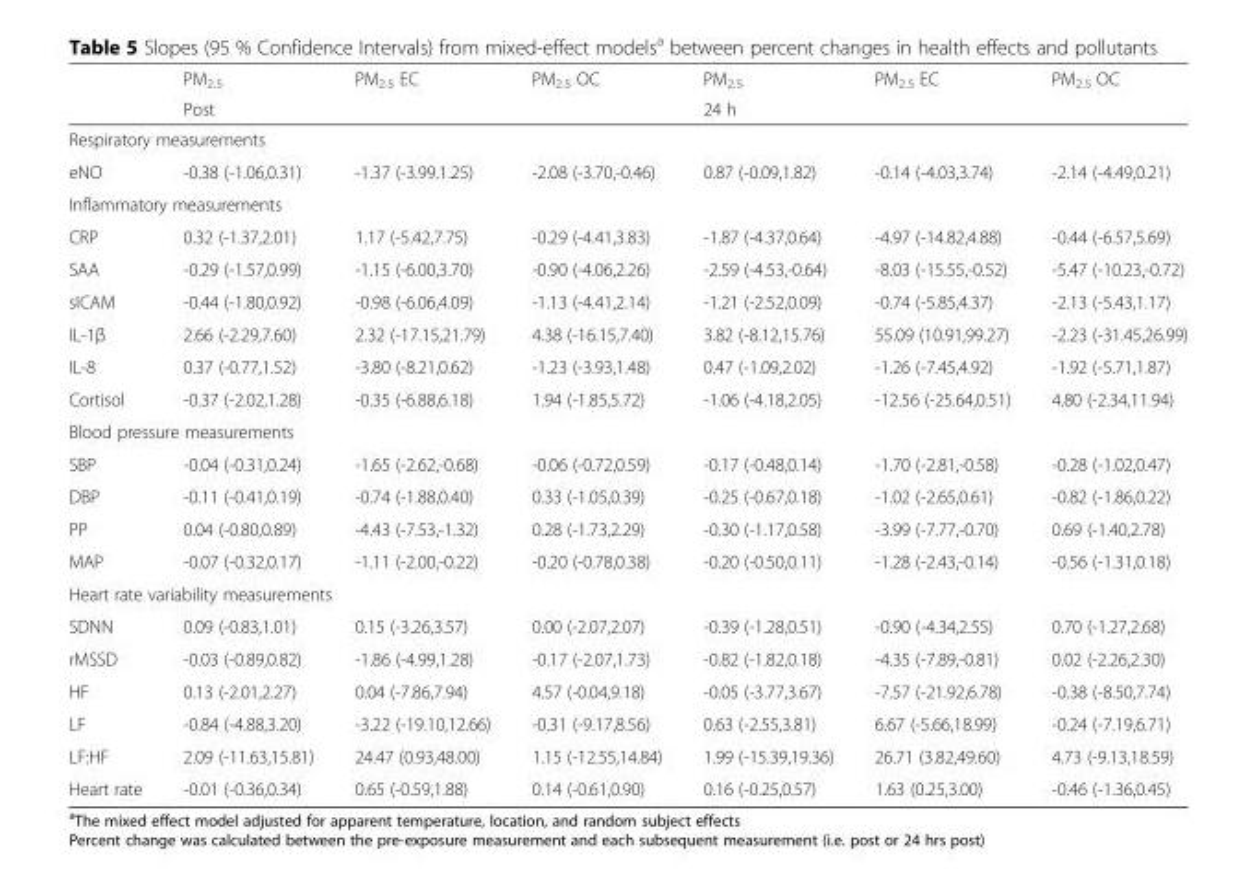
<table><thead><tr><td rowspan="2"></td><td>PM<sub>2.5</sub></td><td>PM<sub>2.5</sub> EC</td><td>PM<sub>2.5</sub> OC</td><td>PM<sub>2.5</sub></td><td>PM<sub>2.5</sub> EC</td><td>PM<sub>2.5</sub> OC</td></tr><tr><td colspan="3">Post</td><td colspan="3">24 h</td></tr></thead><tbody><tr><td colspan="7">Respiratory measurements</td></tr><tr><td>eNO</td><td>-0.38 (-1.06,0.31)</td><td>-1.37 (-3.99.1.25)</td><td>-2.08 (-3.70,-0.46)</td><td>0.87 (-0.09,1.82)</td><td>-0.14 (-4.03,3.74)</td><td>-2.14 (-4.49,0.21)</td></tr><tr><td colspan="7">Inflammatory measurements</td></tr><tr><td>CRP</td><td>0.32 (-1.37,2.01)</td><td>1.17 (-5.42,7.75)</td><td>-0.29 (-4.41,3.83)</td><td>-1.87 (-4.37,0.64)</td><td>-4.97 (-14.82,4.88)</td><td>-0.44 (-6.57,5.69)</td></tr><tr><td>SAA</td><td>-0.29 (-1.57,0.99)</td><td>-1.15 (-6.00,3.70)</td><td>-0.90 (-4.06,2.26)</td><td>-2.59 (-4.53,-0.64)</td><td>-8.03 (-15.55,-0.52)</td><td>-5.47 (-10.23,-0.72)</td></tr><tr><td>sICAM</td><td>-0.44 (-1.80,0.92)</td><td>-0.98 (-6.06,4.09)</td><td>-1.13 (-4.41,2.14)</td><td>-1.21 (-2.52,0.09)</td><td>-0.74 (-5.85,4.37)</td><td>-2.13 (-5.43,1.17)</td></tr><tr><td>IL-1β</td><td>2.66 (-2.29,7.60)</td><td>2.32 (-17.15,21.79)</td><td>4.38 (-16.15,7.40)</td><td>3.82 (-8.12,15.76)</td><td>55.09 (10.91,99.27)</td><td>-2.23 (-31.45,26.99)</td></tr><tr><td>IL-8</td><td>0.37 (-0.77,1.52)</td><td>-3.80 (-8.21,0.62)</td><td>-1.23 (-3.93,1.48)</td><td>0.47 (-1.09,2.02)</td><td>-1.26 (-7.45,4.92)</td><td>-1.92 (-5.71,1.87)</td></tr><tr><td>Cortisol</td><td>-0.37 (-2.02,1.28)</td><td>-0.35 (-6.88,6.18)</td><td>1.94 (-1.85,5.72)</td><td>-1.06 (-4.18,2.05)</td><td>-12.56 (-25.64,0.51)</td><td>4.80 (-2.34,11.94)</td></tr><tr><td colspan="7">Blood pressure measurements</td></tr><tr><td>SBP</td><td>-0.04 (-0.31,0.24)</td><td>-1.65 (-2.62,-0.68)</td><td>-0.06 (-0.72,0.59)</td><td>-0.17 (-0.48,0.14)</td><td>-1.70 (-2.81,-0.58)</td><td>-0.28 (-1.02,0.47)</td></tr><tr><td>DBP</td><td>-0.11 (-0.41,0.19)</td><td>-0.74 (-1.88,0.40)</td><td>0.33 (-1.05,0.39)</td><td>-0.25 (-0.67,0.18)</td><td>-1.02 (-2.65,0.61)</td><td>-0.82 (-1.86,0.22)</td></tr><tr><td>PP</td><td>0.04 (-0.80,0.89)</td><td>-4.43 (-7.53,-1.32)</td><td>0.28 (-1.73,2.29)</td><td>-0.30 (-1.17,0.58)</td><td>-3.99 (-7.77,-0.70)</td><td>0.69 (-1.40,2.78)</td></tr><tr><td>MAP</td><td>-0.07 (-0.32,0.17)</td><td>-1.11 (-2.00,-0.22)</td><td>-0.20 (-0.78,0.38)</td><td>-0.20 (-0.50,0.11)</td><td>-1.28 (-2.43,-0.14)</td><td>-0.56 (-1.31,0.18)</td></tr><tr><td colspan="7">Heart rate variability measurements</td></tr><tr><td>SDNN</td><td>0.09 (-0.83,1.01)</td><td>0.15 (-3.26,3.57)</td><td>0.00 (-2.07,2.07)</td><td>-0.39 (-1.28,0.51)</td><td>-0.90 (-4.34,2.55)</td><td>0.70 (-1.27,2.68)</td></tr><tr><td>rMSSD</td><td>-0.03 (-0.89,0.82)</td><td>-1.86 (-4.99,1.28)</td><td>-0.17 (-2.07,1.73)</td><td>-0.82 (-1.82,0.18)</td><td>-4.35 (-7.89,-0.81)</td><td>0.02 (-2.26,2.30)</td></tr><tr><td>HF</td><td>0.13 (-2.01,2.27)</td><td>0.04 (-7.86,7.94)</td><td>4.57 (-0.04,9.18)</td><td>-0.05 (-3.77,3.67)</td><td>-7.57 (-21.92,6.78)</td><td>-0.38 (-8.50,7.74)</td></tr><tr><td>LF</td><td>-0.84 (-4.88,3.20)</td><td>-3.22 (-19.10,12.66)</td><td>-0.31 (-9.17,8.56)</td><td>0.63 (-2.55,3.81)</td><td>6.67 (-5.66,18.99)</td><td>-0.24 (-7.19,6.71)</td></tr><tr><td>LF:HF</td><td>2.09 (-11.63,15.81)</td><td>24.47 (0.93,48.00)</td><td>1.15 (-12.55,14.84)</td><td>1.99 (-15.39,19.36)</td><td>26.71 (3.82,49.60)</td><td>4.73 (-9.13,18.59)</td></tr><tr><td>Heart rate</td><td>-0.01 (-0.36,0.34)</td><td>0.65 (-0.59,1.88)</td><td>0.14 (-0.61,0.90)</td><td>0.16 (-0.25,0.57)</td><td>1.63 (0.25,3.00)</td><td>-0.46 (-1.36,0.45)</td></tr></tbody></table>